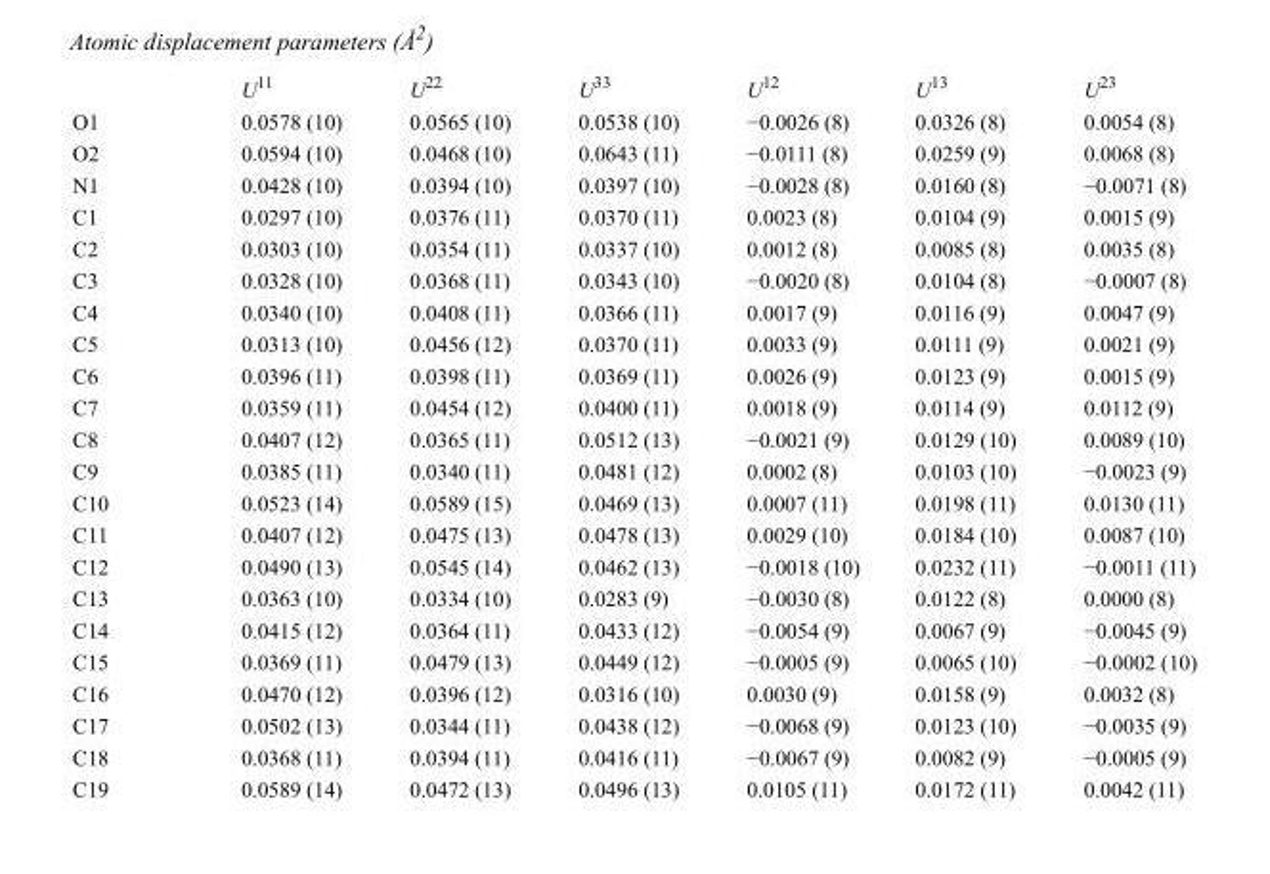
<table><thead><tr><td></td><td>U<sup>11</sup></td><td>U<sup>22</sup></td><td>U<sup>33</sup></td><td>U<sup>12</sup></td><td>U<sup>13</sup></td><td>U<sup>23</sup></td></tr></thead><tbody><tr><td>O1</td><td>0.0578 (10)</td><td>0.0565 (10)</td><td>0.0538 (10)</td><td>−0.0026 (8)</td><td>0.0326 (8)</td><td>0.0054 (8)</td></tr><tr><td>O2</td><td>0.0594 (10)</td><td>0.0468 (10)</td><td>0.0643 (11)</td><td>−0.0111 (8)</td><td>0.0259 (9)</td><td>0.0068 (8)</td></tr><tr><td>N1</td><td>0.0428 (10)</td><td>0.0394 (10)</td><td>0.0397 (10)</td><td>−0.0028 (8)</td><td>0.0160 (8)</td><td>−0.0071 (8)</td></tr><tr><td>C1</td><td>0.0297 (10)</td><td>0.0376 (11)</td><td>0.0370 (11)</td><td>0.0023 (8)</td><td>0.0104 (9)</td><td>0.0015 (9)</td></tr><tr><td>C2</td><td>0.0303 (10)</td><td>0.0354 (11)</td><td>0.0337 (10)</td><td>0.0012 (8)</td><td>0.0085 (8)</td><td>0.0035 (8)</td></tr><tr><td>C3</td><td>0.0328 (10)</td><td>0.0368 (11)</td><td>0.0343 (10)</td><td>−0.0020 (8)</td><td>0.0104 (8)</td><td>−0.0007 (8)</td></tr><tr><td>C4</td><td>0.0340 (10)</td><td>0.0408 (11)</td><td>0.0366 (11)</td><td>0.0017 (9)</td><td>0.0116 (9)</td><td>0.0047 (9)</td></tr><tr><td>C5</td><td>0.0313 (10)</td><td>0.0456 (12)</td><td>0.0370 (11)</td><td>0.0033 (9)</td><td>0.0111 (9)</td><td>0.0021 (9)</td></tr><tr><td>C6</td><td>0.0396 (11)</td><td>0.0398 (11)</td><td>0.0369 (11)</td><td>0.0026 (9)</td><td>0.0123 (9)</td><td>0.0015 (9)</td></tr><tr><td>C7</td><td>0.0359 (11)</td><td>0.0454 (12)</td><td>0.0400 (11)</td><td>0.0018 (9)</td><td>0.0114 (9)</td><td>0.0112 (9)</td></tr><tr><td>C8</td><td>0.0407 (12)</td><td>0.0365 (11)</td><td>0.0512 (13)</td><td>−0.0021 (9)</td><td>0.0129 (10)</td><td>0.0089 (10)</td></tr><tr><td>C9</td><td>0.0385 (11)</td><td>0.0340 (11)</td><td>0.0481 (12)</td><td>0.0002 (8)</td><td>0.0103 (10)</td><td>−0.0023 (9)</td></tr><tr><td>C10</td><td>0.0523 (14)</td><td>0.0589 (15)</td><td>0.0469 (13)</td><td>0.0007 (11)</td><td>0.0198 (11)</td><td>0.0130 (11)</td></tr><tr><td>C11</td><td>0.0407 (12)</td><td>0.0475 (13)</td><td>0.0478 (13)</td><td>0.0029 (10)</td><td>0.0184 (10)</td><td>0.0087 (10)</td></tr><tr><td>C12</td><td>0.0490 (13)</td><td>0.0545 (14)</td><td>0.0462 (13)</td><td>−0.0018 (10)</td><td>0.0232 (11)</td><td>−0.0011 (11)</td></tr><tr><td>C13</td><td>0.0363 (10)</td><td>0.0334 (10)</td><td>0.0283 (9)</td><td>−0.0030 (8)</td><td>0.0122 (8)</td><td>0.0000 (8)</td></tr><tr><td>C14</td><td>0.0415 (12)</td><td>0.0364 (11)</td><td>0.0433 (12)</td><td>−0.0054 (9)</td><td>0.0067 (9)</td><td>−0.0045 (9)</td></tr><tr><td>C15</td><td>0.0369 (11)</td><td>0.0479 (13)</td><td>0.0449 (12)</td><td>−0.0005 (9)</td><td>0.0065 (10)</td><td>−0.0002 (10)</td></tr><tr><td>C16</td><td>0.0470 (12)</td><td>0.0396 (12)</td><td>0.0316 (10)</td><td>0.0030 (9)</td><td>0.0158 (9)</td><td>0.0032 (8)</td></tr><tr><td>C17</td><td>0.0502 (13)</td><td>0.0344 (11)</td><td>0.0438 (12)</td><td>−0.0068 (9)</td><td>0.0123 (10)</td><td>−0.0035 (9)</td></tr><tr><td>C18</td><td>0.0368 (11)</td><td>0.0394 (11)</td><td>0.0416 (11)</td><td>−0.0067 (9)</td><td>0.0082 (9)</td><td>−0.0005 (9)</td></tr><tr><td>C19</td><td>0.0589 (14)</td><td>0.0472 (13)</td><td>0.0496 (13)</td><td>0.0105 (11)</td><td>0.0172 (11)</td><td>0.0042 (11)</td></tr></tbody></table>